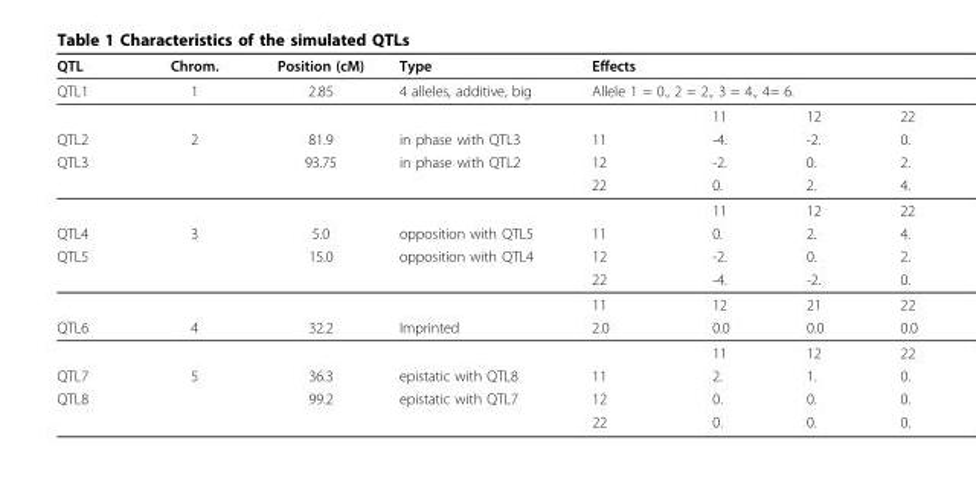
<table><thead><tr><td>QTL</td><td>Chrom.</td><td>Position (cM)</td><td>Type</td><td>Effects</td><td></td><td></td><td></td></tr></thead><tbody><tr><td rowspan="2">QTL1</td><td>1</td><td>2.85</td><td>4 alleles, additive, big</td><td colspan="4">Allele 1 = 0., 2 = 2., 3 = 4., 4= 6.</td></tr><tr><td></td><td></td><td></td><td></td><td>11</td><td>12</td><td>22</td></tr><tr><td>QTL2</td><td>2</td><td>81.9</td><td>in phase with QTL3</td><td>11</td><td>-4.</td><td>-2.</td><td>0.</td></tr><tr><td rowspan="3">QTL3</td><td></td><td>93.75</td><td>in phase with QTL2</td><td>12</td><td>-2.</td><td>0.</td><td>2.</td></tr><tr><td></td><td></td><td></td><td>22</td><td>0.</td><td>2.</td><td>4.</td></tr><tr><td></td><td></td><td></td><td></td><td>11</td><td>12</td><td>22</td></tr><tr><td>QTL4</td><td>3</td><td>5.0</td><td>opposition with QTL5</td><td>11</td><td>0.</td><td>2.</td><td>4.</td></tr><tr><td rowspan="3">QTL5</td><td></td><td>15.0</td><td>opposition with QTL4</td><td>12</td><td>-2.</td><td>0.</td><td>2.</td></tr><tr><td></td><td></td><td></td><td>22</td><td>-4.</td><td>-2.</td><td>0.</td></tr><tr><td></td><td></td><td></td><td>11</td><td>12</td><td>21</td><td>22</td></tr><tr><td rowspan="2">QTL6</td><td>4</td><td>32.2</td><td>Imprinted</td><td>2.0</td><td>0.0</td><td>0.0</td><td>0.0</td></tr><tr><td></td><td></td><td></td><td></td><td>11</td><td>12</td><td>22</td></tr><tr><td>QTL7</td><td>5</td><td>36.3</td><td>epistatic with QTL8</td><td>11</td><td>2.</td><td>1.</td><td>0.</td></tr><tr><td rowspan="2">QTL8</td><td></td><td>99.2</td><td>epistatic with QTL7</td><td>12</td><td>0.</td><td>0.</td><td>0.</td></tr><tr><td></td><td></td><td></td><td>22</td><td>0.</td><td>0.</td><td>0.</td></tr></tbody></table>